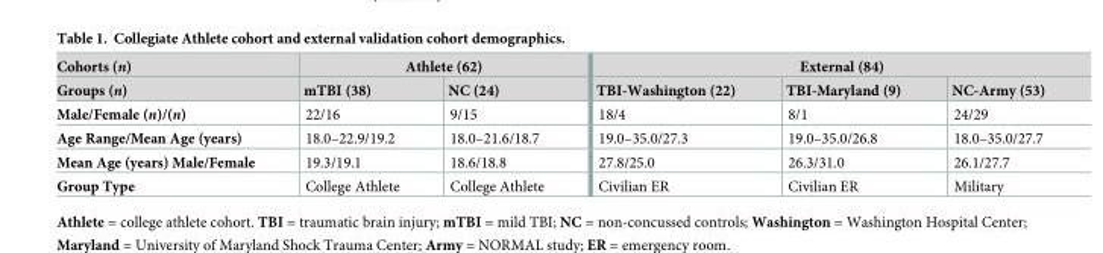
<table><thead><tr><td rowspan="2">Cohorts (n) Groups (n)</td><td colspan="2">Athlete (62)</td><td colspan="3">External (84)</td></tr><tr><td>mTBI (38)</td><td>NC (24)</td><td>TBI-Washington (22)</td><td>TBI-Maryland (9)</td><td>NC-Army (53)</td></tr></thead><tbody><tr><td>Male/Female (n)/(n)</td><td>22/16</td><td>9/15</td><td>18/4</td><td>8/1</td><td>24/29</td></tr><tr><td>Age Range/Mean Age (years)</td><td>18.0–22.9/19.2</td><td>18.0–21.6/18.7</td><td>19.0–35.0/27.3</td><td>19.0–35.0/26.8</td><td>18.0–35.0/27.7</td></tr><tr><td>Mean Age (years) Male/Female</td><td>19.3/19.1</td><td>18.6/18.8</td><td>27.8/25.0</td><td>26.3/31.0</td><td>26.1/27.7</td></tr><tr><td>Group Type</td><td>College Athlete</td><td>College Athlete</td><td>Civilian ER</td><td>Civilian ER</td><td>Military</td></tr></tbody></table>